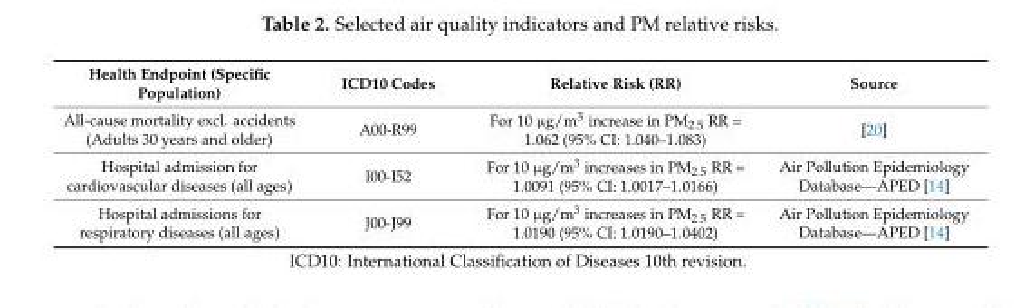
<table><thead><tr><td>Health Endpoint (Specific Population)</td><td>ICD10 Codes</td><td>Relative Risk (RR)</td><td>Source</td></tr></thead><tbody><tr><td>All-cause mortality excl. accidents (Adults 30 years and older)</td><td>A00-R99</td><td>For 10 µg/m<sup>3</sup> increase in PM<sub>2.5</sub> RR = 1.062 (95% CI: 1.040–1.083)</td><td>[20]</td></tr><tr><td>Hospital admission for cardiovascular diseases (all ages)</td><td>I00-I52</td><td>For 10 µg/m<sup>3</sup> increases in PM<sub>2.5</sub> RR = 1.0091 (95% CI: 1.0017–1.0166)</td><td>Air Pollution Epidemiology Database—APED [14]</td></tr><tr><td>Hospital admissions for respiratory diseases (all ages)</td><td>J00-J99</td><td>For 10 µg/m<sup>3</sup> increases in PM<sub>2.5</sub> RR = 1.0190 (95% CI: 1.0190–1.0402)</td><td>Air Pollution Epidemiology Database—APED [14]</td></tr></tbody></table>